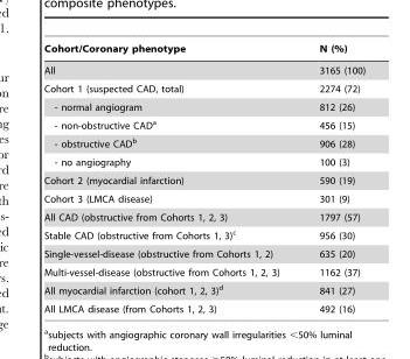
<table><thead><tr><td>Cohort/Coronary phenotype</td><td>N (%)</td></tr></thead><tbody><tr><td>All</td><td>3165 (100)</td></tr><tr><td>Cohort 1 (suspected CAD, total)</td><td>2274 (72)</td></tr><tr><td>- normal angiogram</td><td>812 (26)</td></tr><tr><td>- non-obstructive CAD<sup>a</sup></td><td>456 (15)</td></tr><tr><td>- obstructive CAD<sup>b</sup></td><td>906 (28)</td></tr><tr><td>- no angiography</td><td>100 (3)</td></tr><tr><td>Cohort 2 (myocardial infarction)</td><td>590 (19)</td></tr><tr><td>Cohort 3 (LMCA disease)</td><td>301 (9)</td></tr><tr><td>All CAD (obstructive from Cohorts 1, 2, 3)</td><td>1797 (57)</td></tr><tr><td>Stable CAD (obstructive from Cohorts 1, 3)<sup>c</sup></td><td>956 (30)</td></tr><tr><td>Single-vessel-disease (obstructive from Cohorts 1, 2)</td><td>635 (20)</td></tr><tr><td>Multi-vessel-disease (obstructive from Cohorts 1, 2, 3)</td><td>1162 (37)</td></tr><tr><td>All myocardial infarction (cohort 1, 2, 3)<sup>d</sup></td><td>841 (27)</td></tr><tr><td>All LMCA disease (from Cohorts 1, 2, 3)</td><td>492 (16)</td></tr></tbody></table>